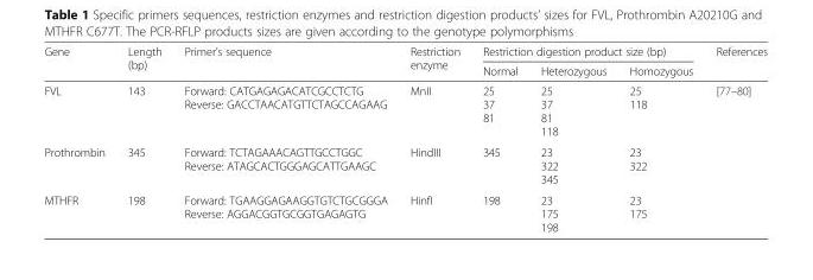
<table><thead><tr><td rowspan="2">Gene</td><td rowspan="2">Length (bp)</td><td rowspan="2">Primer’s sequence</td><td rowspan="2">Restriction enzyme</td><td colspan="3">Restriction digestion product size (bp)</td><td rowspan="2">References</td></tr><tr><td>Normal</td><td>Heterozygous</td><td>Homozygous</td></tr></thead><tbody><tr><td>FVL</td><td>143</td><td>Forward: CATGAGAGACATCGCCTCTG Reverse: GACCTAACATGTTCTAGCCAGAAG</td><td>MnII</td><td>25 37 81</td><td>25 37 81 118</td><td>25 118</td><td rowspan="3">[77–80]</td></tr><tr><td>Prothrombin</td><td>345</td><td>Forward: TCTAGAAACAGTTGCCTGGC Reverse: ATAGCACTGGGAGCATTGAAGC</td><td>HindIII</td><td>345</td><td>23 322 345</td><td>23 322</td></tr><tr><td>MTHFR</td><td>198</td><td>Forward: TGAAGGAGAAGGTGTCTGCGGGA Reverse: AGGACGGTGCGGTGAGAGTG</td><td>HinfI</td><td>198</td><td>23 175 198</td><td>23 175</td></tr></tbody></table>